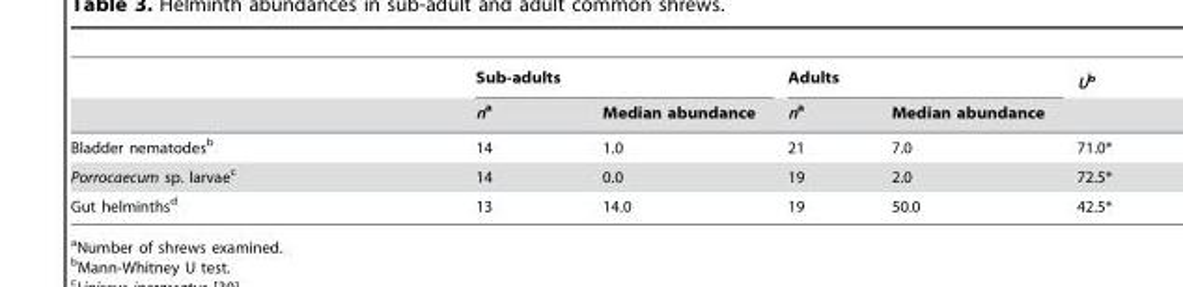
<table><thead><tr><td rowspan="2"></td><td colspan="2">Sub-adults</td><td colspan="2">Adults</td><td rowspan="2">Ub</td></tr><tr><td>na</td><td>Median abundance</td><td>na</td><td>Median abundance</td></tr></thead><tbody><tr><td>Bladder nematodes<sup>b</sup></td><td>14</td><td>1.0</td><td>21</td><td>7.0</td><td>71.0*</td></tr><tr><td>Porrocaecum sp. larvae<sup>c</sup></td><td>14</td><td>0.0</td><td>19</td><td>2.0</td><td>72.5*</td></tr><tr><td>Gut helminths<sup>d</sup></td><td>13</td><td>14.0</td><td>19</td><td>50.0</td><td>42.5*</td></tr></tbody></table>